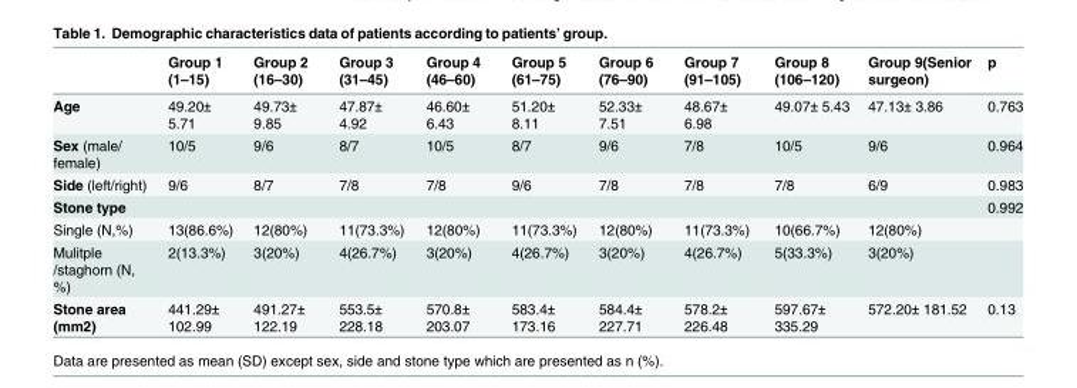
<table><thead><tr><td></td><td>Group 1 (1–15)</td><td>Group 2 (16–30)</td><td>Group 3 (31–45)</td><td>Group 4 (46–60)</td><td>Group 5 (61–75)</td><td>Group 6 (76–90)</td><td>Group 7 (91–105)</td><td>Group 8 (106–120)</td><td>Group 9(Senior surgeon)</td><td>p</td></tr></thead><tbody><tr><td>Age</td><td>49.20± 5.71</td><td>49.73± 9.85</td><td>47.87± 4.92</td><td>46.60± 6.43</td><td>51.20± 8.11</td><td>52.33± 7.51</td><td>48.67± 6.98</td><td>49.07± 5.43</td><td>47.13± 3.86</td><td>0.763</td></tr><tr><td>Sex (male/ female)</td><td>10/5</td><td>9/6</td><td>8/7</td><td>10/5</td><td>8/7</td><td>9/6</td><td>7/8</td><td>10/5</td><td>9/6</td><td>0.964</td></tr><tr><td>Side (left/right)</td><td>9/6</td><td>8/7</td><td>7/8</td><td>7/8</td><td>9/6</td><td>7/8</td><td>7/8</td><td>7/8</td><td>6/9</td><td>0.983</td></tr><tr><td>Stone type</td><td></td><td></td><td></td><td></td><td></td><td></td><td></td><td></td><td></td><td>0.992</td></tr><tr><td>Single (N,%)</td><td>13(86.6%)</td><td>12(80%)</td><td>11(73.3%)</td><td>12(80%)</td><td>11(73.3%)</td><td>12(80%)</td><td>11(73.3%)</td><td>10(66.7%)</td><td>12(80%)</td><td></td></tr><tr><td>Mulitple /staghorn (N, %)</td><td>2(13.3%)</td><td>3(20%)</td><td>4(26.7%)</td><td>3(20%)</td><td>4(26.7%)</td><td>3(20%)</td><td>4(26.7%)</td><td>5(33.3%)</td><td>3(20%)</td><td></td></tr><tr><td>Stone area (mm2)</td><td>441.29± 102.99</td><td>491.27± 122.19</td><td>553.5± 228.18</td><td>570.8± 203.07</td><td>583.4± 173.16</td><td>584.4± 227.71</td><td>578.2± 226.48</td><td>597.67± 335.29</td><td>572.20± 181.52</td><td>0.13</td></tr></tbody></table>